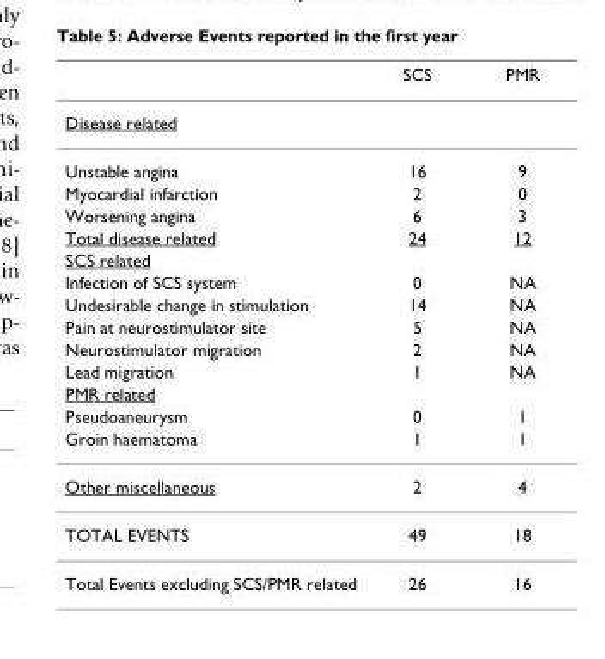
<table><thead><tr><td></td><td>SCS</td><td>PMR</td></tr></thead><tbody><tr><td colspan="3">Disease related</td></tr><tr><td>Unstable angina</td><td>16</td><td>9</td></tr><tr><td>Myocardial infarction</td><td>2</td><td>0</td></tr><tr><td>Worsening angina</td><td>6</td><td>3</td></tr><tr><td>Total disease related</td><td>24</td><td>12</td></tr><tr><td colspan="3">SCS related</td></tr><tr><td>Infection of SCS system</td><td>0</td><td>NA</td></tr><tr><td>Undesirable change in stimulation</td><td>14</td><td>NA</td></tr><tr><td>Pain at neurostimulator site</td><td>5</td><td>NA</td></tr><tr><td>Neurostimulator migration</td><td>2</td><td>NA</td></tr><tr><td>Lead migration</td><td>1</td><td>NA</td></tr><tr><td colspan="3">PMR related</td></tr><tr><td>Pseudoaneurysm</td><td>0</td><td>1</td></tr><tr><td>Groin haematoma</td><td>1</td><td>1</td></tr><tr><td>Other miscellaneous</td><td>2</td><td>4</td></tr><tr><td>TOTAL EVENTS</td><td>49</td><td>18</td></tr><tr><td>Total Events excluding SCS/PMR related</td><td>26</td><td>16</td></tr></tbody></table>